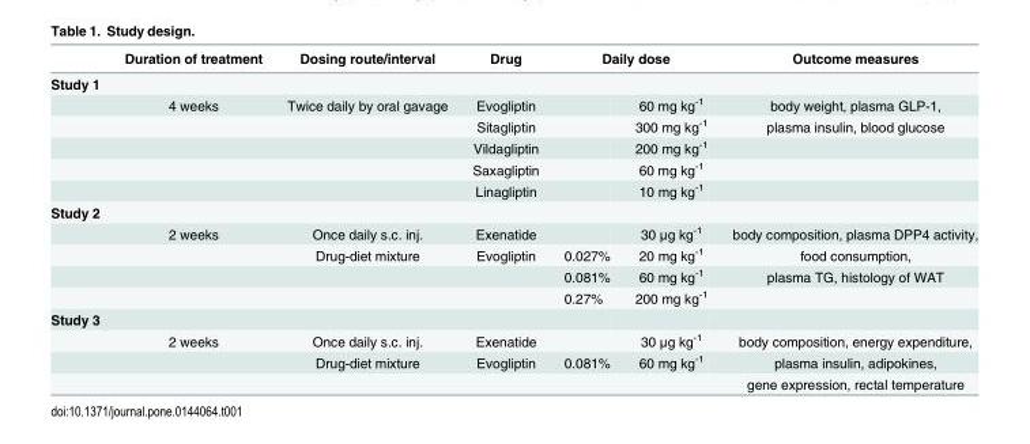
<table><thead><tr><td rowspan="2">Study 1</td><td rowspan="2">Duration of treatment</td><td rowspan="2">Dosing route/interval</td><td rowspan="2">Drug</td><td colspan="2">Daily dose</td><td rowspan="2">Outcome measures</td></tr><tr><td></td><td></td></tr></thead><tbody><tr><td></td><td>4 weeks</td><td>Twice daily by oral gavage</td><td>Evogliptin</td><td></td><td>60 mg kg<sup>-1</sup></td><td>body weight, plasma GLP-1,</td></tr><tr><td></td><td></td><td></td><td>Sitagliptin</td><td></td><td>300 mg kg<sup>-1</sup></td><td>plasma insulin, blood glucose</td></tr><tr><td></td><td></td><td></td><td>Vildagliptin</td><td></td><td>200 mg kg<sup>-1</sup></td><td></td></tr><tr><td></td><td></td><td></td><td>Saxagliptin</td><td></td><td>60 mg kg<sup>-1</sup></td><td></td></tr><tr><td></td><td></td><td></td><td>Linagliptin</td><td></td><td>10 mg kg<sup>-1</sup></td><td></td></tr><tr><td colspan="7">Study 2</td></tr><tr><td></td><td>2 weeks</td><td>Once daily s.c. inj.</td><td>Exenatide</td><td></td><td>30 μg kg<sup>-1</sup></td><td>body composition, plasma DPP4 activity,</td></tr><tr><td></td><td></td><td>Drug-diet mixture</td><td>Evogliptin</td><td>0.027%</td><td>20 mg kg<sup>-1</sup></td><td>food consumption,</td></tr><tr><td></td><td></td><td></td><td></td><td>0.081%</td><td>60 mg kg<sup>-1</sup></td><td>plasma TG, histology of WAT</td></tr><tr><td></td><td></td><td></td><td></td><td>0.27%</td><td>200 mg kg<sup>-1</sup></td><td></td></tr><tr><td colspan="7">Study 3</td></tr><tr><td></td><td>2 weeks</td><td>Once daily s.c. inj.</td><td>Exenatide</td><td></td><td>30 μg kg<sup>-1</sup></td><td>body composition, energy expenditure,</td></tr><tr><td></td><td></td><td>Drug-diet mixture</td><td>Evogliptin</td><td>0.081%</td><td>60 mg kg<sup>-1</sup></td><td>plasma insulin, adipokines,</td></tr><tr><td></td><td></td><td></td><td></td><td></td><td></td><td>gene expression, rectal temperature</td></tr></tbody></table>